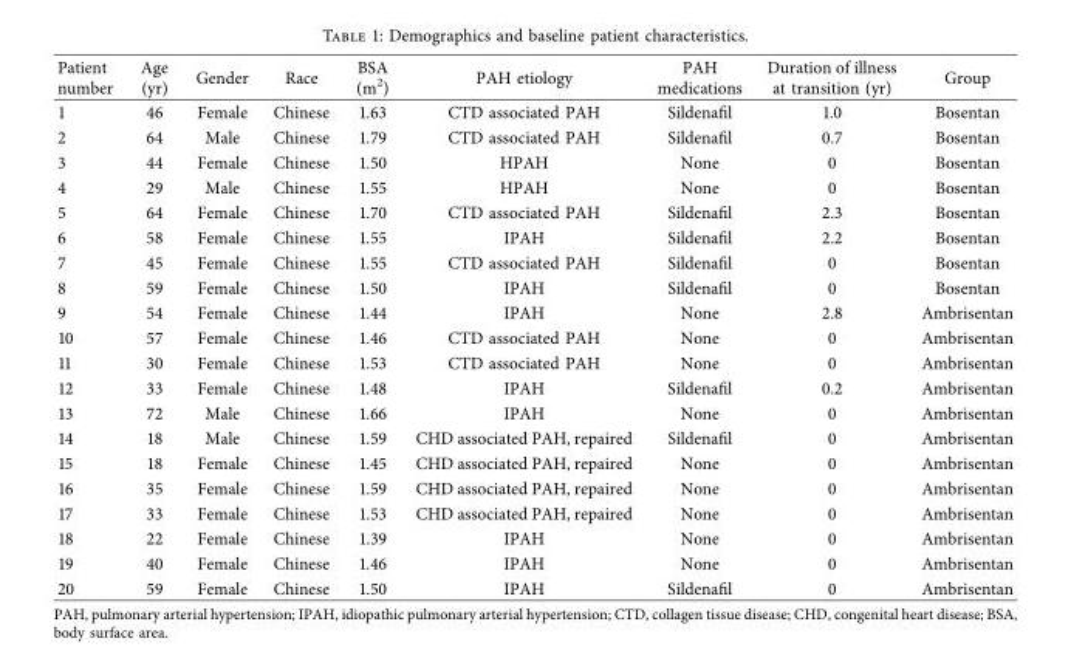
<table><thead><tr><td>Patient number</td><td>Age (yr)</td><td>Gender</td><td>Race</td><td>BSA (m<sup>2</sup>)</td><td>PAH etiology</td><td>PAH medications</td><td>Duration of illness at transition (yr)</td><td>Group</td></tr></thead><tbody><tr><td>1</td><td>46</td><td>Female</td><td>Chinese</td><td>1.63</td><td>CTD associated PAH</td><td>Sildenafil</td><td>1.0</td><td>Bosentan</td></tr><tr><td>2</td><td>64</td><td>Male</td><td>Chinese</td><td>1.79</td><td>CTD associated PAH</td><td>Sildenafil</td><td>0.7</td><td>Bosentan</td></tr><tr><td>3</td><td>44</td><td>Female</td><td>Chinese</td><td>1.50</td><td>HPAH</td><td>None</td><td>0</td><td>Bosentan</td></tr><tr><td>4</td><td>29</td><td>Male</td><td>Chinese</td><td>1.55</td><td>HPAH</td><td>None</td><td>0</td><td>Bosentan</td></tr><tr><td>5</td><td>64</td><td>Female</td><td>Chinese</td><td>1.70</td><td>CTD associated PAH</td><td>Sildenafil</td><td>2.3</td><td>Bosentan</td></tr><tr><td>6</td><td>58</td><td>Female</td><td>Chinese</td><td>1.55</td><td>IPAH</td><td>Sildenafil</td><td>2.2</td><td>Bosentan</td></tr><tr><td>7</td><td>45</td><td>Female</td><td>Chinese</td><td>1.55</td><td>CTD associated PAH</td><td>Sildenafil</td><td>0</td><td>Bosentan</td></tr><tr><td>8</td><td>59</td><td>Female</td><td>Chinese</td><td>1.50</td><td>IPAH</td><td>Sildenafil</td><td>0</td><td>Bosentan</td></tr><tr><td>9</td><td>54</td><td>Female</td><td>Chinese</td><td>1.44</td><td>IPAH</td><td>None</td><td>2.8</td><td>Ambrisentan</td></tr><tr><td>10</td><td>57</td><td>Female</td><td>Chinese</td><td>1.46</td><td>CTD associated PAH</td><td>None</td><td>0</td><td>Ambrisentan</td></tr><tr><td>11</td><td>30</td><td>Female</td><td>Chinese</td><td>1.53</td><td>CTD associated PAH</td><td>None</td><td>0</td><td>Ambrisentan</td></tr><tr><td>12</td><td>33</td><td>Female</td><td>Chinese</td><td>1.48</td><td>IPAH</td><td>Sildenafil</td><td>0.2</td><td>Ambrisentan</td></tr><tr><td>13</td><td>72</td><td>Male</td><td>Chinese</td><td>1.66</td><td>IPAH</td><td>None</td><td>0</td><td>Ambrisentan</td></tr><tr><td>14</td><td>18</td><td>Male</td><td>Chinese</td><td>1.59</td><td>CHD associated PAH, repaired</td><td>Sildenafil</td><td>0</td><td>Ambrisentan</td></tr><tr><td>15</td><td>18</td><td>Female</td><td>Chinese</td><td>1.45</td><td>CHD associated PAH, repaired</td><td>None</td><td>0</td><td>Ambrisentan</td></tr><tr><td>16</td><td>35</td><td>Female</td><td>Chinese</td><td>1.59</td><td>CHD associated PAH, repaired</td><td>None</td><td>0</td><td>Ambrisentan</td></tr><tr><td>17</td><td>33</td><td>Female</td><td>Chinese</td><td>1.53</td><td>CHD associated PAH, repaired</td><td>None</td><td>0</td><td>Ambrisentan</td></tr><tr><td>18</td><td>22</td><td>Female</td><td>Chinese</td><td>1.39</td><td>IPAH</td><td>None</td><td>0</td><td>Ambrisentan</td></tr><tr><td>19</td><td>40</td><td>Female</td><td>Chinese</td><td>1.46</td><td>IPAH</td><td>None</td><td>0</td><td>Ambrisentan</td></tr><tr><td>20</td><td>59</td><td>Female</td><td>Chinese</td><td>1.50</td><td>IPAH</td><td>Sildenafil</td><td>0</td><td>Ambrisentan</td></tr></tbody></table>